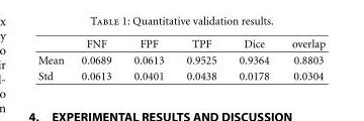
<table><thead><tr><td></td><td>FNF</td><td>FPF</td><td>TPF</td><td>Dice</td><td>overlap</td></tr></thead><tbody><tr><td>Mean</td><td>0.0689</td><td>0.0613</td><td>0.9525</td><td>0.9364</td><td>0.8803</td></tr><tr><td>Std</td><td>0.0613</td><td>0.0401</td><td>0.0438</td><td>0.0178</td><td>0.0304</td></tr></tbody></table>